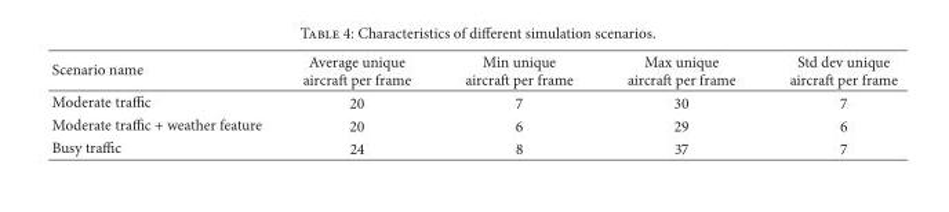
<table><thead><tr><td>Scenario name</td><td>Average unique aircraft per frame</td><td>Min unique aircraft per frame</td><td>Max unique aircraft per frame</td><td>Std dev unique aircraft per frame</td></tr></thead><tbody><tr><td>Moderate traffic</td><td>20</td><td>7</td><td>30</td><td>7</td></tr><tr><td>Moderate traffic + weather feature</td><td>20</td><td>6</td><td>29</td><td>6</td></tr><tr><td>Busy traffic</td><td>24</td><td>8</td><td>37</td><td>7</td></tr></tbody></table>